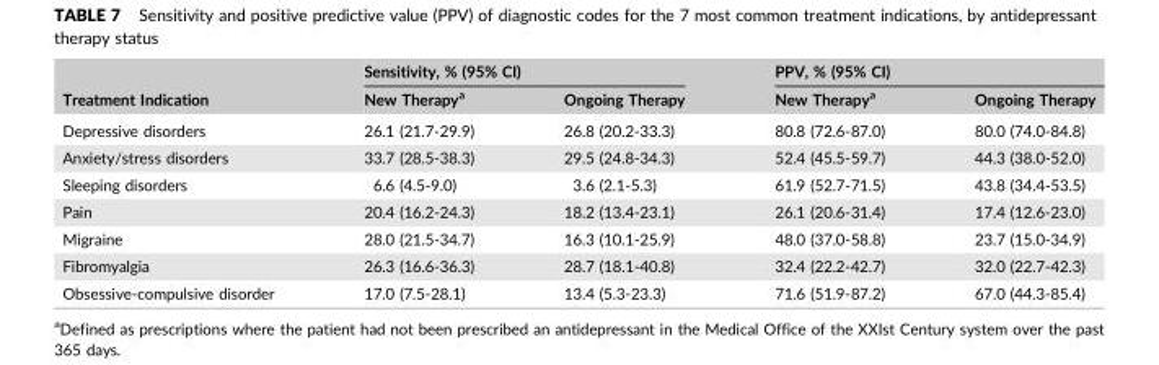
<table><thead><tr><td rowspan="2">Treatment Indication</td><td colspan="2">Sensitivity, % (95% CI)</td><td colspan="2">PPV, % (95% CI)</td></tr><tr><td>New Therapy<sup>a</sup></td><td>Ongoing Therapy</td><td>New Therapy<sup>a</sup></td><td>Ongoing Therapy</td></tr></thead><tbody><tr><td>Depressive disorders</td><td>26.1 (21.7‐29.9)</td><td>26.8 (20.2‐33.3)</td><td>80.8 (72.6‐87.0)</td><td>80.0 (74.0‐84.8)</td></tr><tr><td>Anxiety/stress disorders</td><td>33.7 (28.5‐38.3)</td><td>29.5 (24.8‐34.3)</td><td>52.4 (45.5‐59.7)</td><td>44.3 (38.0‐52.0)</td></tr><tr><td>Sleeping disorders</td><td>6.6 (4.5‐9.0)</td><td>3.6 (2.1‐5.3)</td><td>61.9 (52.7‐71.5)</td><td>43.8 (34.4‐53.5)</td></tr><tr><td>Pain</td><td>20.4 (16.2‐24.3)</td><td>18.2 (13.4‐23.1)</td><td>26.1 (20.6‐31.4)</td><td>17.4 (12.6‐23.0)</td></tr><tr><td>Migraine</td><td>28.0 (21.5‐34.7)</td><td>16.3 (10.1‐25.9)</td><td>48.0 (37.0‐58.8)</td><td>23.7 (15.0‐34.9)</td></tr><tr><td>Fibromyalgia</td><td>26.3 (16.6‐36.3)</td><td>28.7 (18.1‐40.8)</td><td>32.4 (22.2‐42.7)</td><td>32.0 (22.7‐42.3)</td></tr><tr><td>Obsessive‐compulsive disorder</td><td>17.0 (7.5‐28.1)</td><td>13.4 (5.3‐23.3)</td><td>71.6 (51.9‐87.2)</td><td>67.0 (44.3‐85.4)</td></tr></tbody></table>